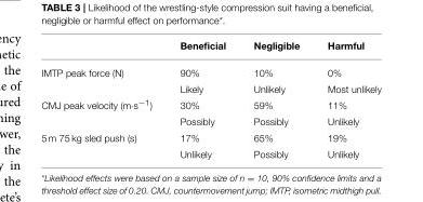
<table><thead><tr><td></td><td>Beneficial</td><td>Negligible</td><td>Harmful</td></tr></thead><tbody><tr><td rowspan="2">IMTP peak force (N)</td><td>90%</td><td>10%</td><td>0%</td></tr><tr><td>Likely</td><td>Unlikely</td><td>Most unlikely</td></tr><tr><td rowspan="2">CMJ peak velocity (m·s<sup>−1</sup>)</td><td>30%</td><td>59%</td><td>11%</td></tr><tr><td>Possibly</td><td>Possibly</td><td>Unlikely</td></tr><tr><td rowspan="2">5 m 75 kg sled push (s)</td><td>17%</td><td>65%</td><td>19%</td></tr><tr><td>Unlikely</td><td>Possibly</td><td>Unlikely</td></tr></tbody></table>